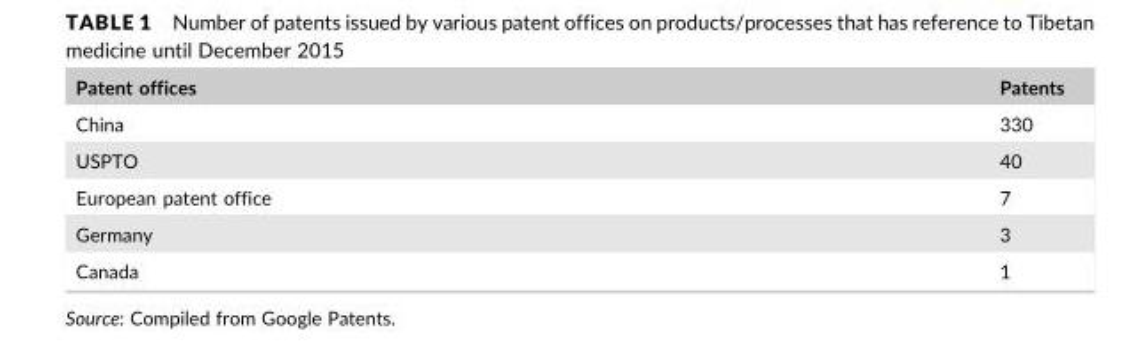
<table><thead><tr><td>Patent offices</td><td>Patents</td></tr></thead><tbody><tr><td>China</td><td>330</td></tr><tr><td>USPTO</td><td>40</td></tr><tr><td>European patent office</td><td>7</td></tr><tr><td>Germany</td><td>3</td></tr><tr><td>Canada</td><td>1</td></tr></tbody></table>